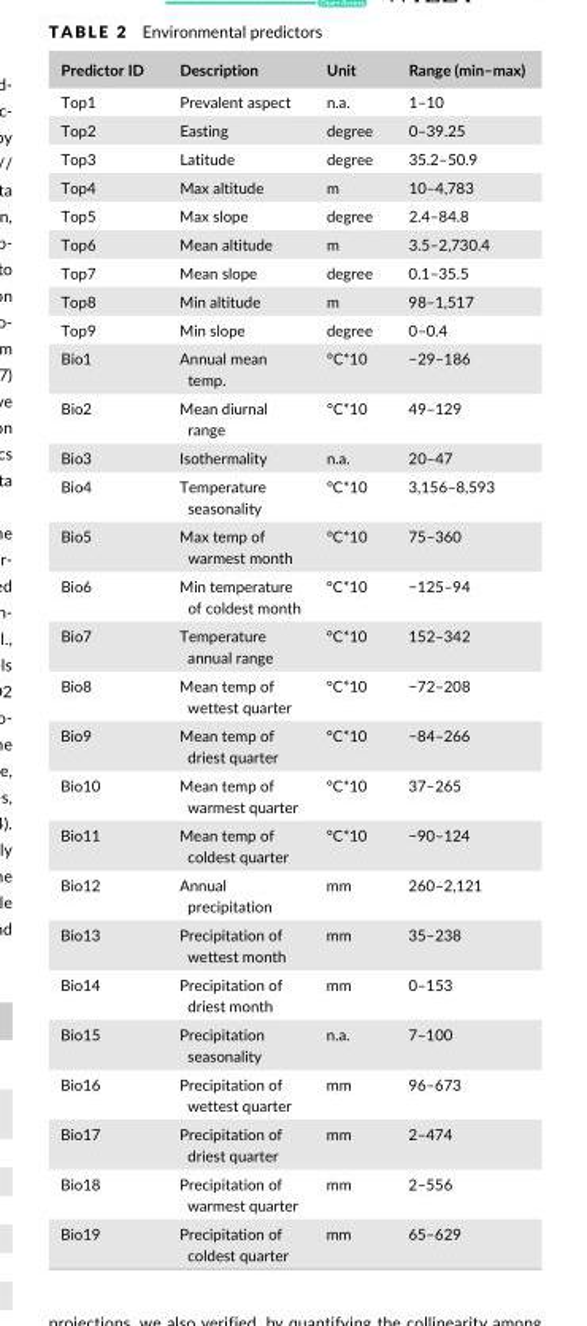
<table><thead><tr><td>Predictor ID</td><td>Description</td><td>Unit</td><td>Range (min–max)</td></tr></thead><tbody><tr><td>Top1</td><td>Prevalent aspect</td><td>n.a.</td><td>1–10</td></tr><tr><td>Top2</td><td>Easting</td><td>degree</td><td>0–39.25</td></tr><tr><td>Top3</td><td>Latitude</td><td>degree</td><td>35.2–50.9</td></tr><tr><td>Top4</td><td>Max altitude</td><td>m</td><td>10–4,783</td></tr><tr><td>Top5</td><td>Max slope</td><td>degree</td><td>2.4–84.8</td></tr><tr><td>Top6</td><td>Mean altitude</td><td>m</td><td>3.5–2,730.4</td></tr><tr><td>Top7</td><td>Mean slope</td><td>degree</td><td>0.1–35.5</td></tr><tr><td>Top8</td><td>Min altitude</td><td>m</td><td>98–1,517</td></tr><tr><td>Top9</td><td>Min slope</td><td>degree</td><td>0–0.4</td></tr><tr><td>Bio1</td><td>Annual mean temp.</td><td>°C*10</td><td>−29–186</td></tr><tr><td>Bio2</td><td>Mean diurnal range</td><td>°C*10</td><td>49–129</td></tr><tr><td>Bio3</td><td>Isothermality</td><td>n.a.</td><td>20–47</td></tr><tr><td>Bio4</td><td>Temperature seasonality</td><td>°C*10</td><td>3,156–8,593</td></tr><tr><td>Bio5</td><td>Max temp of warmest month</td><td>°C*10</td><td>75–360</td></tr><tr><td>Bio6</td><td>Min temperature of coldest month</td><td>°C*10</td><td>−125–94</td></tr><tr><td>Bio7</td><td>Temperature annual range</td><td>°C*10</td><td>152–342</td></tr><tr><td>Bio8</td><td>Mean temp of wettest quarter</td><td>°C*10</td><td>−72–208</td></tr><tr><td>Bio9</td><td>Mean temp of driest quarter</td><td>°C*10</td><td>−84–266</td></tr><tr><td>Bio10</td><td>Mean temp of warmest quarter</td><td>°C*10</td><td>37–265</td></tr><tr><td>Bio11</td><td>Mean temp of coldest quarter</td><td>°C*10</td><td>−90–124</td></tr><tr><td>Bio12</td><td>Annual precipitation</td><td>mm</td><td>260–2,121</td></tr><tr><td>Bio13</td><td>Precipitation of wettest month</td><td>mm</td><td>35–238</td></tr><tr><td>Bio14</td><td>Precipitation of driest month</td><td>mm</td><td>0–153</td></tr><tr><td>Bio15</td><td>Precipitation seasonality</td><td>n.a.</td><td>7–100</td></tr><tr><td>Bio16</td><td>Precipitation of wettest quarter</td><td>mm</td><td>96–673</td></tr><tr><td>Bio17</td><td>Precipitation of driest quarter</td><td>mm</td><td>2–474</td></tr><tr><td>Bio18</td><td>Precipitation of warmest quarter</td><td>mm</td><td>2–556</td></tr><tr><td>Bio19</td><td>Precipitation of coldest quarter</td><td>mm</td><td>65–629</td></tr></tbody></table>